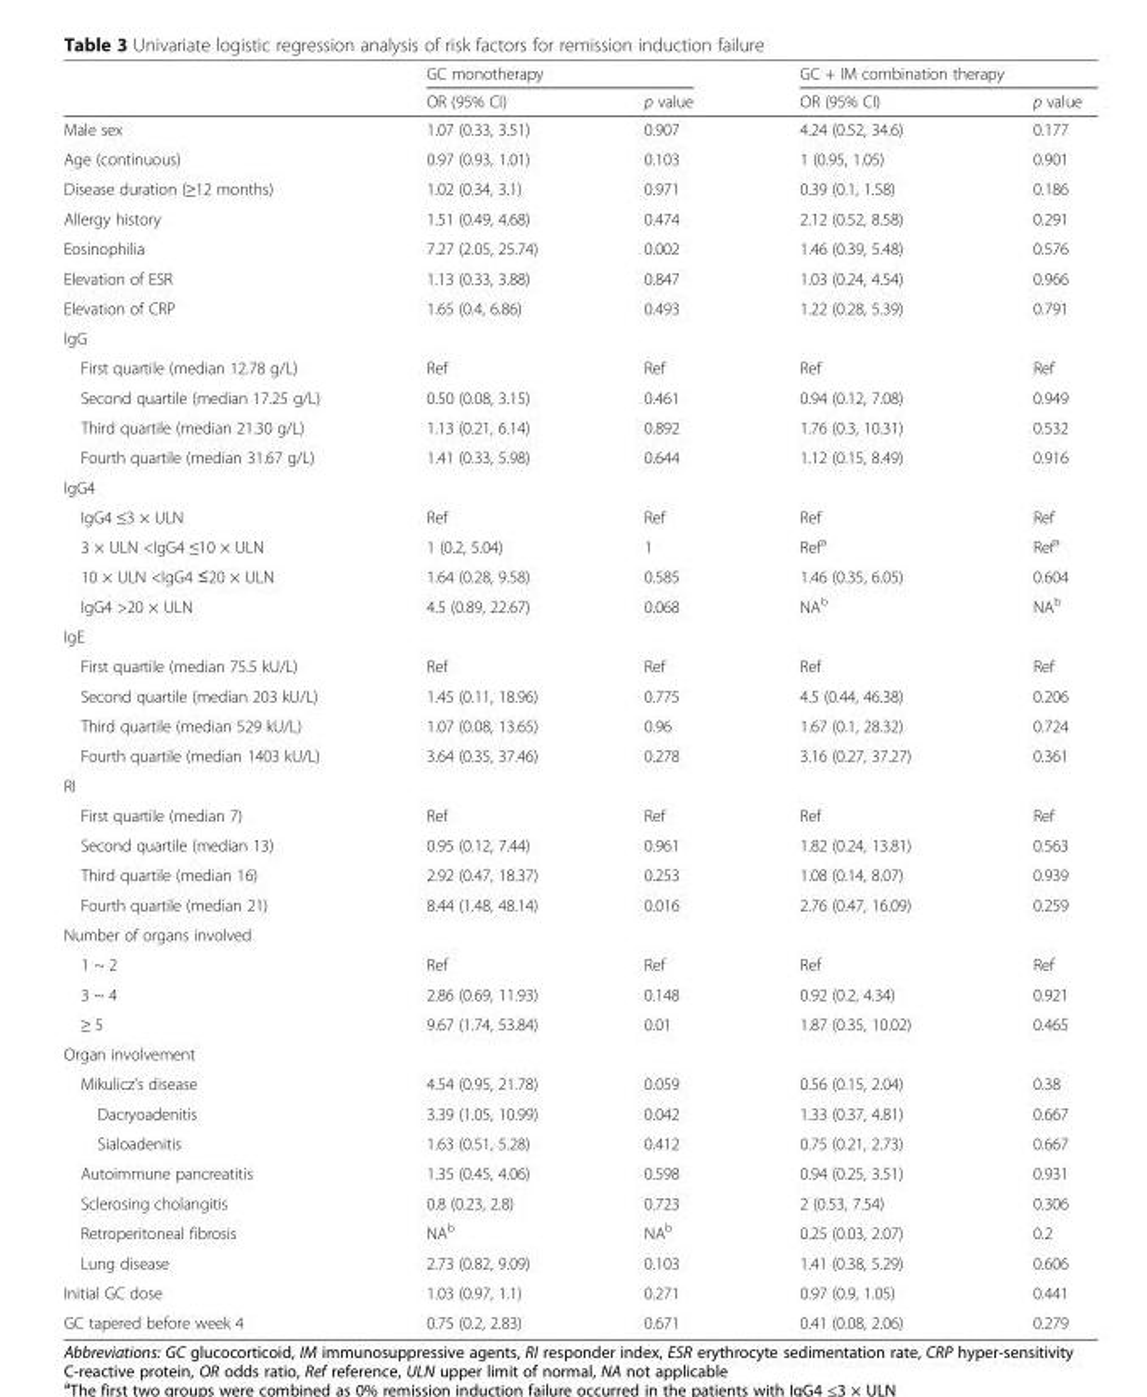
<table><thead><tr><td rowspan="2"></td><td colspan="2">GC monotherapy</td><td colspan="2">GC + IM combination therapy</td></tr><tr><td>OR (95% CI)</td><td>p value</td><td>OR (95% CI)</td><td>p value</td></tr></thead><tbody><tr><td>Male sex</td><td>1.07 (0.33, 3.51)</td><td>0.907</td><td>4.24 (0.52, 34.6)</td><td>0.177</td></tr><tr><td>Age (continuous)</td><td>0.97 (0.93, 1.01)</td><td>0.103</td><td>1 (0.95, 1.05)</td><td>0.901</td></tr><tr><td>Disease duration (≥12 months)</td><td>1.02 (0.34, 3.1)</td><td>0.971</td><td>0.39 (0.1, 1.58)</td><td>0.186</td></tr><tr><td>Allergy history</td><td>1.51 (0.49, 4.68)</td><td>0.474</td><td>2.12 (0.52, 8.58)</td><td>0.291</td></tr><tr><td>Eosinophilia</td><td>7.27 (2.05, 25.74)</td><td>0.002</td><td>1.46 (0.39, 5.48)</td><td>0.576</td></tr><tr><td>Elevation of ESR</td><td>1.13 (0.33, 3.88)</td><td>0.847</td><td>1.03 (0.24, 4.54)</td><td>0.966</td></tr><tr><td>Elevation of CRP</td><td>1.65 (0.4, 6.86)</td><td>0.493</td><td>1.22 (0.28, 5.39)</td><td>0.791</td></tr><tr><td colspan="5">IgG</td></tr><tr><td>First quartile (median 12.78 g/L)</td><td>Ref</td><td>Ref</td><td>Ref</td><td>Ref</td></tr><tr><td>Second quartile (median 17.25 g/L)</td><td>0.50 (0.08, 3.15)</td><td>0.461</td><td>0.94 (0.12, 7.08)</td><td>0.949</td></tr><tr><td>Third quartile (median 21.30 g/L)</td><td>1.13 (0.21, 6.14)</td><td>0.892</td><td>1.76 (0.3, 10.31)</td><td>0.532</td></tr><tr><td>Fourth quartile (median 31.67 g/L)</td><td>1.41 (0.33, 5.98)</td><td>0.644</td><td>1.12 (0.15, 8.49)</td><td>0.916</td></tr><tr><td colspan="5">IgG4</td></tr><tr><td>IgG4 ≤3 × ULN</td><td>Ref</td><td>Ref</td><td>Ref</td><td>Ref</td></tr><tr><td>3 × ULN &lt;IgG4 ≤10 × ULN</td><td>1 (0.2, 5.04)</td><td>1</td><td>Ref<sup>a</sup></td><td>Ref<sup>a</sup></td></tr><tr><td>10 × ULN &lt;IgG4 ≤20 × ULN</td><td>1.64 (0.28, 9.58)</td><td>0.585</td><td>1.46 (0.35, 6.05)</td><td>0.604</td></tr><tr><td>IgG4 &gt;20 × ULN</td><td>4.5 (0.89, 22.67)</td><td>0.068</td><td>NA<sup>b</sup></td><td>NA<sup>b</sup></td></tr><tr><td colspan="5">IgE</td></tr><tr><td>First quartile (median 75.5 kU/L)</td><td>Ref</td><td>Ref</td><td>Ref</td><td>Ref</td></tr><tr><td>Second quartile (median 203 kU/L)</td><td>1.45 (0.11, 18.96)</td><td>0.775</td><td>4.5 (0.44, 46.38)</td><td>0.206</td></tr><tr><td>Third quartile (median 529 kU/L)</td><td>1.07 (0.08, 13.65)</td><td>0.96</td><td>1.67 (0.1, 28.32)</td><td>0.724</td></tr><tr><td>Fourth quartile (median 1403 kU/L)</td><td>3.64 (0.35, 37.46)</td><td>0.278</td><td>3.16 (0.27, 37.27)</td><td>0.361</td></tr><tr><td colspan="5">RI</td></tr><tr><td>First quartile (median 7)</td><td>Ref</td><td>Ref</td><td>Ref</td><td>Ref</td></tr><tr><td>Second quartile (median 13)</td><td>0.95 (0.12, 7.44)</td><td>0.961</td><td>1.82 (0.24, 13.81)</td><td>0.563</td></tr><tr><td>Third quartile (median 16)</td><td>2.92 (0.47, 18.37)</td><td>0.253</td><td>1.08 (0.14, 8.07)</td><td>0.939</td></tr><tr><td>Fourth quartile (median 21)</td><td>8.44 (1.48, 48.14)</td><td>0.016</td><td>2.76 (0.47, 16.09)</td><td>0.259</td></tr><tr><td colspan="5">Number of organs involved</td></tr><tr><td>1 ~ 2</td><td>Ref</td><td>Ref</td><td>Ref</td><td>Ref</td></tr><tr><td>3 ~ 4</td><td>2.86 (0.69, 11.93)</td><td>0.148</td><td>0.92 (0.2, 4.34)</td><td>0.921</td></tr><tr><td>≥ 5</td><td>9.67 (1.74, 53.84)</td><td>0.01</td><td>1.87 (0.35, 10.02)</td><td>0.465</td></tr><tr><td colspan="5">Organ involvement</td></tr><tr><td>Mikulicz’s disease</td><td>4.54 (0.95, 21.78)</td><td>0.059</td><td>0.56 (0.15, 2.04)</td><td>0.38</td></tr><tr><td>Dacryoadenitis</td><td>3.39 (1.05, 10.99)</td><td>0.042</td><td>1.33 (0.37, 4.81)</td><td>0.667</td></tr><tr><td>Sialoadenitis</td><td>1.63 (0.51, 5.28)</td><td>0.412</td><td>0.75 (0.21, 2.73)</td><td>0.667</td></tr><tr><td>Autoimmune pancreatitis</td><td>1.35 (0.45, 4.06)</td><td>0.598</td><td>0.94 (0.25, 3.51)</td><td>0.931</td></tr><tr><td>Sclerosing cholangitis</td><td>0.8 (0.23, 2.8)</td><td>0.723</td><td>2 (0.53, 7.54)</td><td>0.306</td></tr><tr><td>Retroperitoneal fibrosis</td><td>NA<sup>b</sup></td><td>NA<sup>b</sup></td><td>0.25 (0.03, 2.07)</td><td>0.2</td></tr><tr><td>Lung disease</td><td>2.73 (0.82, 9.09)</td><td>0.103</td><td>1.41 (0.38, 5.29)</td><td>0.606</td></tr><tr><td>Initial GC dose</td><td>1.03 (0.97, 1.1)</td><td>0.271</td><td>0.97 (0.9, 1.05)</td><td>0.441</td></tr><tr><td>GC tapered before week 4</td><td>0.75 (0.2, 2.83)</td><td>0.671</td><td>0.41 (0.08, 2.06)</td><td>0.279</td></tr></tbody></table>